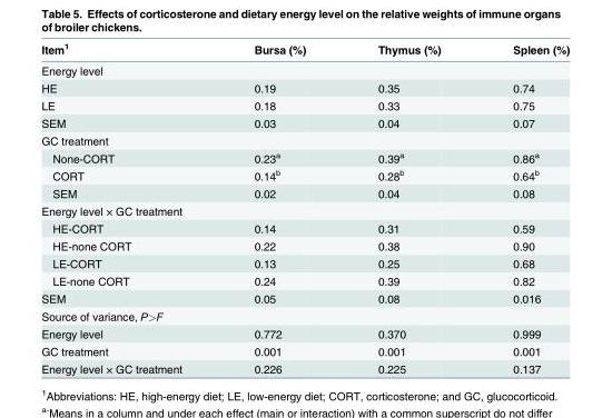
<table><thead><tr><td>Item<sup>1</sup></td><td>Bursa (%)</td><td>Thymus (%)</td><td>Spleen (%)</td></tr></thead><tbody><tr><td colspan="4">Energy level</td></tr><tr><td>HE</td><td>0.19</td><td>0.35</td><td>0.74</td></tr><tr><td>LE</td><td>0.18</td><td>0.33</td><td>0.75</td></tr><tr><td>SEM</td><td>0.03</td><td>0.04</td><td>0.07</td></tr><tr><td colspan="4">GC treatment</td></tr><tr><td>None-CORT</td><td>0.23<sup>a</sup></td><td>0.39<sup>a</sup></td><td>0.86<sup>a</sup></td></tr><tr><td>CORT</td><td>0.14<sup>b</sup></td><td>0.28<sup>b</sup></td><td>0.64<sup>b</sup></td></tr><tr><td>SEM</td><td>0.02</td><td>0.04</td><td>0.08</td></tr><tr><td colspan="4">Energy level × GC treatment</td></tr><tr><td>HE-CORT</td><td>0.14</td><td>0.31</td><td>0.59</td></tr><tr><td>HE-none CORT</td><td>0.22</td><td>0.38</td><td>0.90</td></tr><tr><td>LE-CORT</td><td>0.13</td><td>0.25</td><td>0.68</td></tr><tr><td>LE-none CORT</td><td>0.24</td><td>0.39</td><td>0.82</td></tr><tr><td>SEM</td><td>0.05</td><td>0.08</td><td>0.016</td></tr><tr><td colspan="4">Source of variance, P&gt;F</td></tr><tr><td>Energy level</td><td>0.772</td><td>0.370</td><td>0.999</td></tr><tr><td>GC treatment</td><td>0.001</td><td>0.001</td><td>0.001</td></tr><tr><td>Energy level × GC treatment</td><td>0.226</td><td>0.225</td><td>0.137</td></tr></tbody></table>